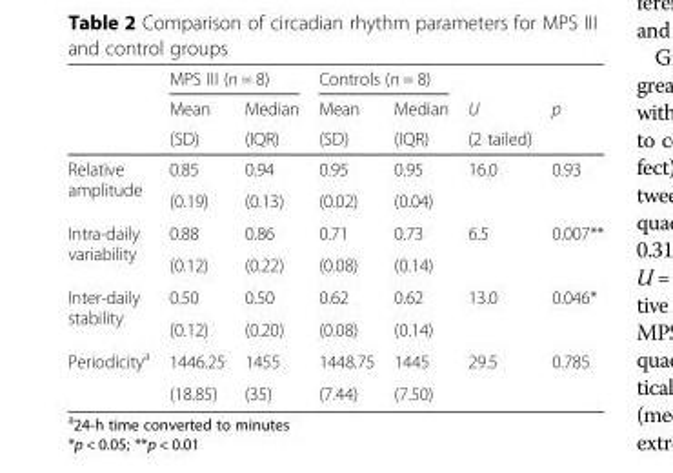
<table><thead><tr><td rowspan="3"></td><td colspan="2">MPS III (n = 8)</td><td colspan="2">Controls (n = 8)</td><td rowspan="3">U (2 tailed)</td><td rowspan="3">p</td></tr><tr><td rowspan="2">Mean (SD)</td><td rowspan="2">Median (IQR)</td><td rowspan="2">Mean (SD)</td><td rowspan="2">Median (IQR)</td></tr><tr></tr></thead><tbody><tr><td rowspan="2">Relative amplitude</td><td>0.85</td><td>0.94</td><td>0.95</td><td>0.95</td><td rowspan="2">16.0</td><td rowspan="2">0.93</td></tr><tr><td>(0.19)</td><td>(0.13)</td><td>(0.02)</td><td>(0.04)</td></tr><tr><td rowspan="2">Intra-daily variability</td><td>0.88</td><td>0.86</td><td>0.71</td><td>0.73</td><td rowspan="2">6.5</td><td rowspan="2">0.007**</td></tr><tr><td>(0.12)</td><td>(0.22)</td><td>(0.08)</td><td>(0.14)</td></tr><tr><td rowspan="2">Inter-daily stability</td><td>0.50</td><td>0.50</td><td>0.62</td><td>0.62</td><td rowspan="2">13.0</td><td rowspan="2">0.046*</td></tr><tr><td>(0.12)</td><td>(0.20)</td><td>(0.08)</td><td>(0.14)</td></tr><tr><td rowspan="2">Periodicity<sup>a</sup></td><td>1446.25</td><td>1455</td><td>1448.75</td><td>1445</td><td rowspan="2">29.5</td><td rowspan="2">0.785</td></tr><tr><td>(18.85)</td><td>(35)</td><td>(7.44)</td><td>(7.50)</td></tr></tbody></table>